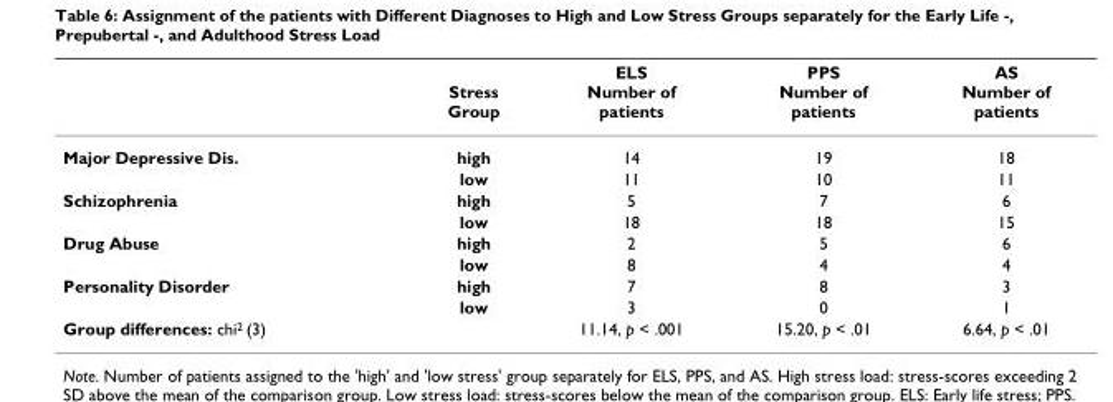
<table><thead><tr><td></td><td>Stress Group</td><td>ELS Number of patients</td><td>PPS Number of patients</td><td>AS Number of patients</td></tr></thead><tbody><tr><td rowspan="2">Major Depressive Dis.</td><td>high</td><td>14</td><td>19</td><td>18</td></tr><tr><td>low</td><td>11</td><td>10</td><td>11</td></tr><tr><td rowspan="2">Schizophrenia</td><td>high</td><td>5</td><td>7</td><td>6</td></tr><tr><td>low</td><td>18</td><td>18</td><td>15</td></tr><tr><td rowspan="2">Drug Abuse</td><td>high</td><td>2</td><td>5</td><td>6</td></tr><tr><td>low</td><td>8</td><td>4</td><td>4</td></tr><tr><td rowspan="2">Personality Disorder</td><td>high</td><td>7</td><td>8</td><td>3</td></tr><tr><td>low</td><td>3</td><td>0</td><td>1</td></tr><tr><td>Group differences: chi<sup>2</sup> (3)</td><td></td><td>11.14, p &lt; .001</td><td>15.20, p &lt; .01</td><td>6.64, p &lt; .01</td></tr></tbody></table>